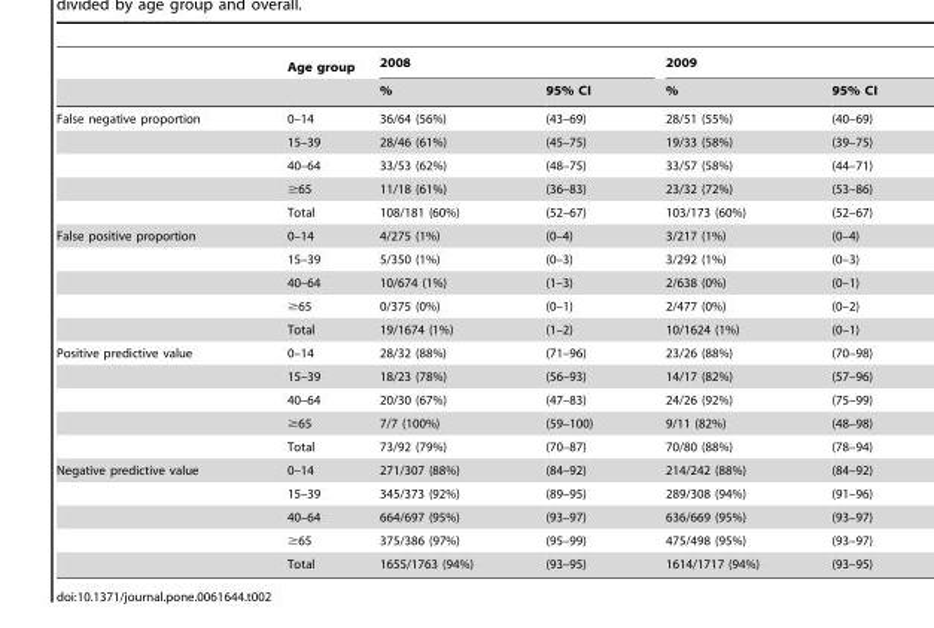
<table><thead><tr><td rowspan="2"></td><td rowspan="2">Age group</td><td colspan="2">2008</td><td colspan="2">2009</td></tr><tr><td>%</td><td>95% CI</td><td>%</td><td>95% CI</td></tr></thead><tbody><tr><td rowspan="5">False negative proportion</td><td>0–14</td><td>36/64 (56%)</td><td>(43–69)</td><td>28/51 (55%)</td><td>(40–69)</td></tr><tr><td>15–39</td><td>28/46 (61%)</td><td>(45–75)</td><td>19/33 (58%)</td><td>(39–75)</td></tr><tr><td>40–64</td><td>33/53 (62%)</td><td>(48–75)</td><td>33/57 (58%)</td><td>(44–71)</td></tr><tr><td>≥65</td><td>11/18 (61%)</td><td>(36–83)</td><td>23/32 (72%)</td><td>(53–86)</td></tr><tr><td>Total</td><td>108/181 (60%)</td><td>(52–67)</td><td>103/173 (60%)</td><td>(52–67)</td></tr><tr><td rowspan="5">False positive proportion</td><td>0–14</td><td>4/275 (1%)</td><td>(0–4)</td><td>3/217 (1%)</td><td>(0–4)</td></tr><tr><td>15–39</td><td>5/350 (1%)</td><td>(0–3)</td><td>3/292 (1%)</td><td>(0–3)</td></tr><tr><td>40–64</td><td>10/674 (1%)</td><td>(1–3)</td><td>2/638 (0%)</td><td>(0–1)</td></tr><tr><td>≥65</td><td>0/375 (0%)</td><td>(0–1)</td><td>2/477 (0%)</td><td>(0–2)</td></tr><tr><td>Total</td><td>19/1674 (1%)</td><td>(1–2)</td><td>10/1624 (1%)</td><td>(0–1)</td></tr><tr><td rowspan="5">Positive predictive value</td><td>0–14</td><td>28/32 (88%)</td><td>(71–96)</td><td>23/26 (88%)</td><td>(70–98)</td></tr><tr><td>15–39</td><td>18/23 (78%)</td><td>(56–93)</td><td>14/17 (82%)</td><td>(57–96)</td></tr><tr><td>40–64</td><td>20/30 (67%)</td><td>(47–83)</td><td>24/26 (92%)</td><td>(75–99)</td></tr><tr><td>≥65</td><td>7/7 (100%)</td><td>(59–100)</td><td>9/11 (82%)</td><td>(48–98)</td></tr><tr><td>Total</td><td>73/92 (79%)</td><td>(70–87)</td><td>70/80 (88%)</td><td>(78–94)</td></tr><tr><td rowspan="5">Negative predictive value</td><td>0–14</td><td>271/307 (88%)</td><td>(84–92)</td><td>214/242 (88%)</td><td>(84–92)</td></tr><tr><td>15–39</td><td>345/373 (92%)</td><td>(89–95)</td><td>289/308 (94%)</td><td>(91–96)</td></tr><tr><td>40–64</td><td>664/697 (95%)</td><td>(93–97)</td><td>636/669 (95%)</td><td>(93–97)</td></tr><tr><td>≥65</td><td>375/386 (97%)</td><td>(95–99)</td><td>475/498 (95%)</td><td>(93–97)</td></tr><tr><td>Total</td><td>1655/1763 (94%)</td><td>(93–95)</td><td>1614/1717 (94%)</td><td>(93–95)</td></tr></tbody></table>